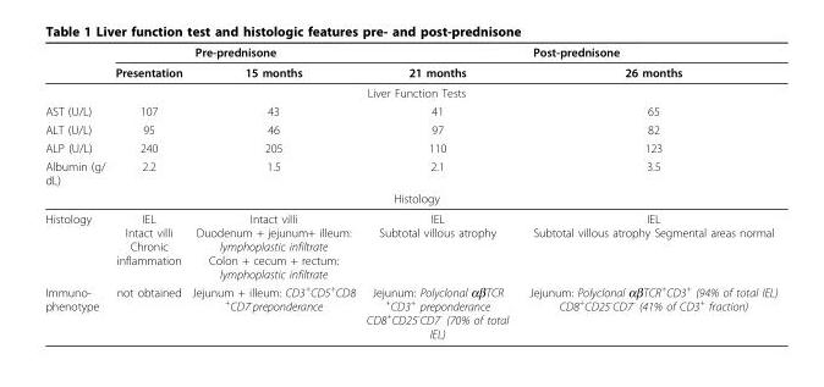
<table><thead><tr><td rowspan="2"></td><td colspan="2">Pre-prednisone</td><td colspan="2">Post-prednisone</td></tr><tr><td>Presentation</td><td>15 months</td><td>21 months</td><td>26 months</td></tr></thead><tbody><tr><td colspan="5">Liver Function Tests</td></tr><tr><td>AST (U/L)</td><td>107</td><td>43</td><td>41</td><td>65</td></tr><tr><td>ALT (U/L)</td><td>95</td><td>46</td><td>97</td><td>82</td></tr><tr><td>ALP (U/L)</td><td>240</td><td>205</td><td>110</td><td>123</td></tr><tr><td>Albumin (g/ dL)</td><td>2.2</td><td>1.5</td><td>2.1</td><td>3.5</td></tr><tr><td colspan="5">Histology</td></tr><tr><td>Histology</td><td>IEL Intact villi Chronic inflammation</td><td>Intact villi Duodenum + jejunum+ illeum: lymphoplastic infiltrate Colon + cecum + rectum: lymphoplastic infiltrate</td><td>IEL Subtotal villous atrophy</td><td>IEL Subtotal villous atrophy Segmental areas normal</td></tr><tr><td>Immuno- phenotype</td><td>not obtained</td><td>Jejunum + illeum: CD3<sup>+</sup>CD5<sup>+</sup>CD8 <sup>+</sup>CD7<sup>-</sup>preponderance</td><td>Jejunum: Polyclonal αβTCR <sup>+</sup>CD3<sup>+</sup> preponderance CD8<sup>+</sup>CD25<sup>-</sup>CD7<sup>-</sup> (70% of total IEL)</td><td>Jejunum: Polyclonal αβTCR<sup>+</sup>CD3<sup>+</sup> (94% of total IEL) CD8<sup>+</sup>CD25<sup>-</sup>CD7<sup>-</sup> (41% of CD3<sup>+</sup> fraction)</td></tr></tbody></table>